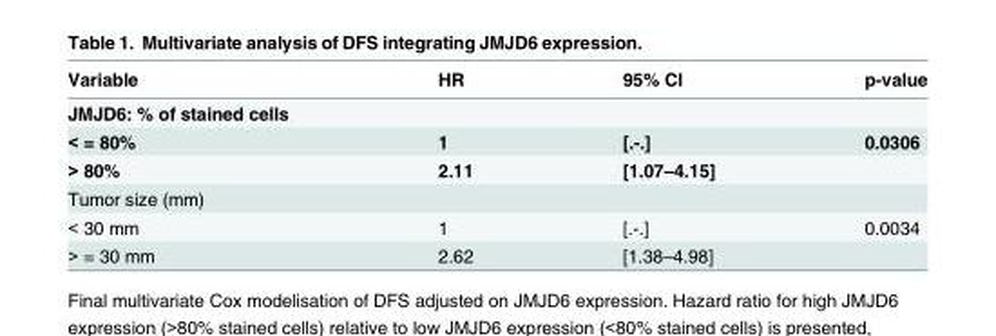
<table><thead><tr><td>Variable</td><td>HR</td><td>95% CI</td><td>p-value</td></tr></thead><tbody><tr><td colspan="4">JMJD6: % of stained cells</td></tr><tr><td>&lt; = 80%</td><td>1</td><td>[.-.]</td><td>0.0306</td></tr><tr><td>&gt; 80%</td><td>2.11</td><td>[1.07–4.15]</td><td></td></tr><tr><td colspan="4">Tumor size (mm)</td></tr><tr><td>&lt; 30 mm</td><td>1</td><td>[.-.]</td><td>0.0034</td></tr><tr><td>&gt; = 30 mm</td><td>2.62</td><td>[1.38–4.98]</td><td></td></tr></tbody></table>